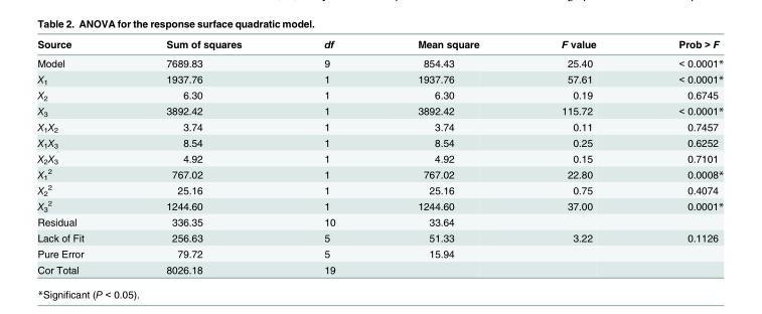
<table><thead><tr><td>Source</td><td>Sum of squares</td><td>df</td><td>Mean square</td><td>F value</td><td>Prob &gt; F</td></tr></thead><tbody><tr><td>Model</td><td>7689.83</td><td>9</td><td>854.43</td><td>25.40</td><td>&lt; 0.0001*</td></tr><tr><td>X<sub>1</sub></td><td>1937.76</td><td>1</td><td>1937.76</td><td>57.61</td><td>&lt; 0.0001*</td></tr><tr><td>X<sub>2</sub></td><td>6.30</td><td>1</td><td>6.30</td><td>0.19</td><td>0.6745</td></tr><tr><td>X<sub>3</sub></td><td>3892.42</td><td>1</td><td>3892.42</td><td>115.72</td><td>&lt; 0.0001*</td></tr><tr><td>X<sub>1</sub>X<sub>2</sub></td><td>3.74</td><td>1</td><td>3.74</td><td>0.11</td><td>0.7457</td></tr><tr><td>X<sub>1</sub>X<sub>3</sub></td><td>8.54</td><td>1</td><td>8.54</td><td>0.25</td><td>0.6252</td></tr><tr><td>X<sub>2</sub>X<sub>3</sub></td><td>4.92</td><td>1</td><td>4.92</td><td>0.15</td><td>0.7101</td></tr><tr><td>X<sub>1</sub> <sup>2</sup></td><td>767.02</td><td>1</td><td>767.02</td><td>22.80</td><td>0.0008*</td></tr><tr><td>X<sub>2</sub> <sup>2</sup></td><td>25.16</td><td>1</td><td>25.16</td><td>0.75</td><td>0.4074</td></tr><tr><td>X<sub>3</sub> <sup>2</sup></td><td>1244.60</td><td>1</td><td>1244.60</td><td>37.00</td><td>0.0001*</td></tr><tr><td>Residual</td><td>336.35</td><td>10</td><td>33.64</td><td></td><td></td></tr><tr><td>Lack of Fit</td><td>256.63</td><td>5</td><td>51.33</td><td>3.22</td><td>0.1126</td></tr><tr><td>Pure Error</td><td>79.72</td><td>5</td><td>15.94</td><td></td><td></td></tr><tr><td>Cor Total</td><td>8026.18</td><td>19</td><td></td><td></td><td></td></tr></tbody></table>